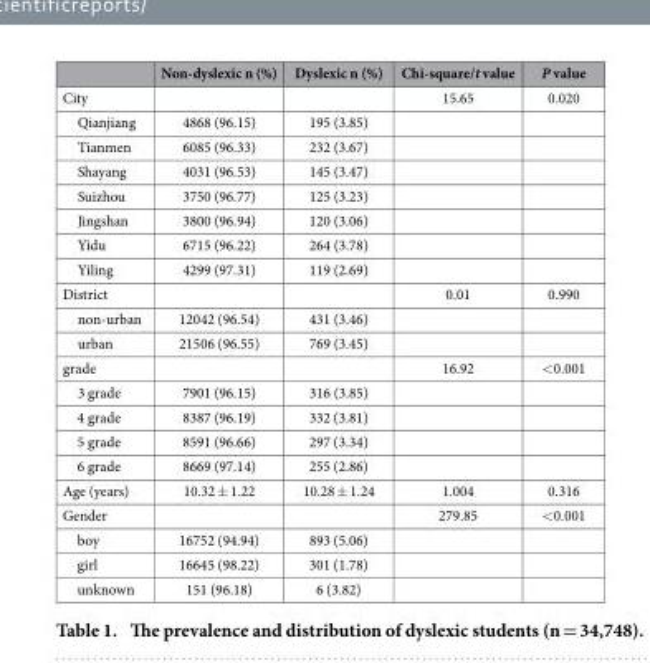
<table><thead><tr><td></td><td>Non-dyslexic n (%)</td><td>Dyslexic n (%)</td><td>Chi-square/t value</td><td>P value</td></tr></thead><tbody><tr><td>City</td><td></td><td></td><td>15.65</td><td>0.020</td></tr><tr><td>Qianjiang</td><td>4868 (96.15)</td><td>195 (3.85)</td><td></td><td></td></tr><tr><td>Tianmen</td><td>6085 (96.33)</td><td>232 (3.67)</td><td></td><td></td></tr><tr><td>Shayang</td><td>4031 (96.53)</td><td>145 (3.47)</td><td></td><td></td></tr><tr><td>Suizhou</td><td>3750 (96.77)</td><td>125 (3.23)</td><td></td><td></td></tr><tr><td>Jingshan</td><td>3800 (96.94)</td><td>120 (3.06)</td><td></td><td></td></tr><tr><td>Yidu</td><td>6715 (96.22)</td><td>264 (3.78)</td><td></td><td></td></tr><tr><td>Yiling</td><td>4299 (97.31)</td><td>119 (2.69)</td><td></td><td></td></tr><tr><td>District</td><td></td><td></td><td>0.01</td><td>0.990</td></tr><tr><td>non-urban</td><td>12042 (96.54)</td><td>431 (3.46)</td><td></td><td></td></tr><tr><td>urban</td><td>21506 (96.55)</td><td>769 (3.45)</td><td></td><td></td></tr><tr><td>grade</td><td></td><td></td><td>16.92</td><td>&lt; 0.001</td></tr><tr><td>3 grade</td><td>7901 (96.15)</td><td>316 (3.85)</td><td></td><td></td></tr><tr><td>4 grade</td><td>8387 (96.19)</td><td>332 (3.81)</td><td></td><td></td></tr><tr><td>5 grade</td><td>8591 (96.66)</td><td>297 (3.34)</td><td></td><td></td></tr><tr><td>6 grade</td><td>8669 (97.14)</td><td>255 (2.86)</td><td></td><td></td></tr><tr><td>Age (years)</td><td>10.32 ± 1.22</td><td>10.28 ± 1.24</td><td>1.004</td><td>0.316</td></tr><tr><td>Gender</td><td></td><td></td><td>279.85</td><td>&lt; 0.001</td></tr><tr><td>boy</td><td>16752 (94.94)</td><td>893 (5.06)</td><td></td><td></td></tr><tr><td>girl</td><td>16645 (98.22)</td><td>301 (1.78)</td><td></td><td></td></tr><tr><td>unknown</td><td>151 (96.18)</td><td>6 (3.82)</td><td></td><td></td></tr></tbody></table>